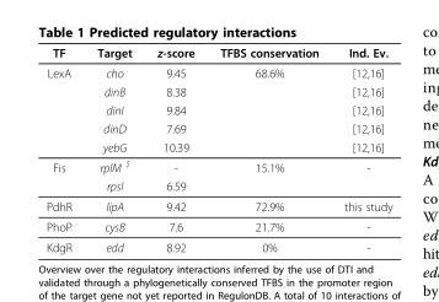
<table><thead><tr><td>TF</td><td>Target</td><td>z-score</td><td>TFBS conservation</td><td>Ind. Ev.</td></tr></thead><tbody><tr><td rowspan="5">LexA</td><td>cho</td><td>9.45</td><td>68.6%</td><td>[12,16]</td></tr><tr><td>dinB</td><td>8.38</td><td></td><td>[12,16]</td></tr><tr><td>dinI</td><td>9.84</td><td></td><td>[12,16]</td></tr><tr><td>dinD</td><td>7.69</td><td></td><td>[12,16]</td></tr><tr><td>yebG</td><td>10.39</td><td></td><td>[12,16]</td></tr><tr><td rowspan="2">Fis</td><td>rplM <sup>$</sup></td><td>-</td><td>15.1%</td><td>-</td></tr><tr><td>rpsI</td><td>6.59</td><td></td><td></td></tr><tr><td>PdhR</td><td>lipA</td><td>9.42</td><td>72.9%</td><td>this study</td></tr><tr><td>PhoP</td><td>cysB</td><td>7.6</td><td>21.7%</td><td>-</td></tr><tr><td>KdgR</td><td>edd</td><td>8.92</td><td>0%</td><td>-</td></tr></tbody></table>